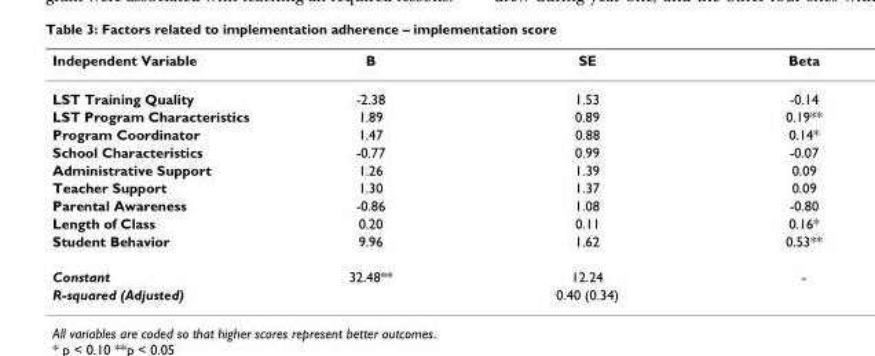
<table><thead><tr><td>Independent Variable</td><td>B</td><td>SE</td><td>Beta</td></tr></thead><tbody><tr><td>LST Training Quality</td><td>-2.38</td><td>1.53</td><td>-0.14</td></tr><tr><td>LST Program Characteristics</td><td>1.89</td><td>0.89</td><td>0.19**</td></tr><tr><td>Program Coordinator</td><td>1.47</td><td>0.88</td><td>0.14*</td></tr><tr><td>School Characteristics</td><td>-0.77</td><td>0.99</td><td>-0.07</td></tr><tr><td>Administrative Support</td><td>1.26</td><td>1.39</td><td>0.09</td></tr><tr><td>Teacher Support</td><td>1.30</td><td>1.37</td><td>0.09</td></tr><tr><td>Parental Awareness</td><td>-0.86</td><td>1.08</td><td>-0.80</td></tr><tr><td>Length of Class</td><td>0.20</td><td>0.11</td><td>0.16*</td></tr><tr><td>Student Behavior</td><td>9.96</td><td>1.62</td><td>0.53**</td></tr><tr><td>Constant</td><td>32.48**</td><td>12.24</td><td>-</td></tr><tr><td>R-squared (Adjusted)</td><td></td><td>0.40 (0.34)</td><td></td></tr></tbody></table>